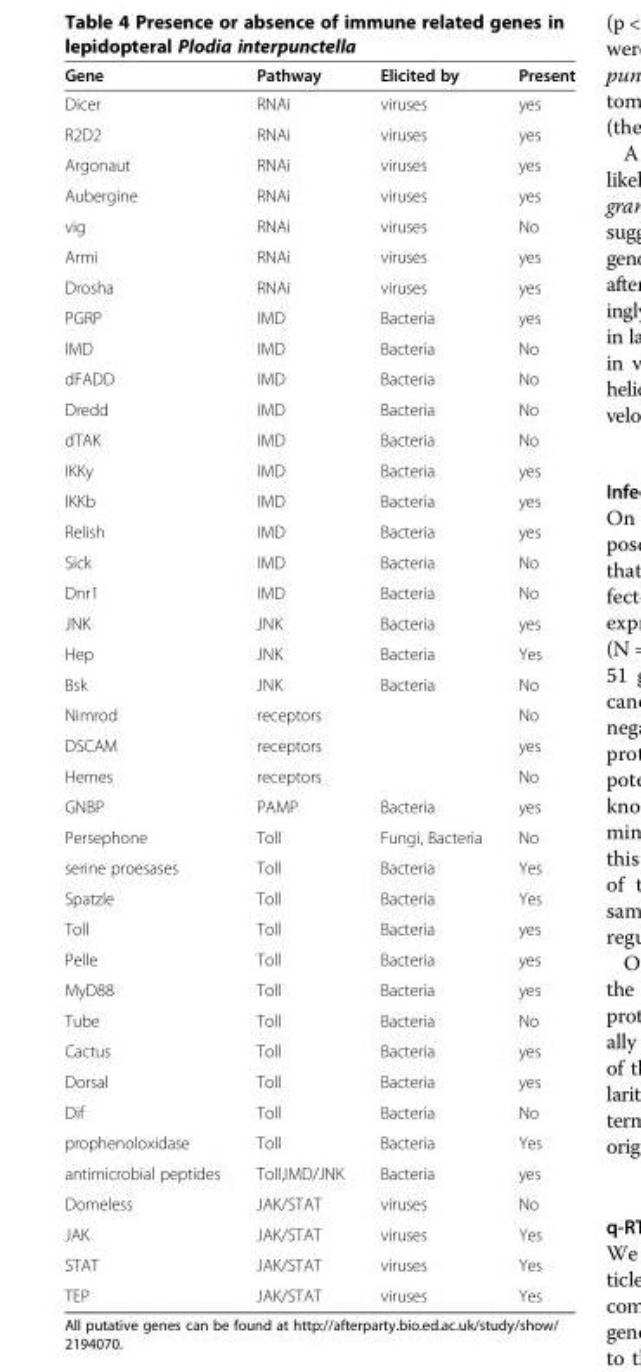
<table><thead><tr><td>Gene</td><td>Pathway</td><td>Elicited by</td><td>Present</td></tr></thead><tbody><tr><td>Dicer</td><td>RNAi</td><td>viruses</td><td>yes</td></tr><tr><td>R2D2</td><td>RNAi</td><td>viruses</td><td>yes</td></tr><tr><td>Argonaut</td><td>RNAi</td><td>viruses</td><td>yes</td></tr><tr><td>Aubergine</td><td>RNAi</td><td>viruses</td><td>yes</td></tr><tr><td>vig</td><td>RNAi</td><td>viruses</td><td>No</td></tr><tr><td>Armi</td><td>RNAi</td><td>viruses</td><td>yes</td></tr><tr><td>Drosha</td><td>RNAi</td><td>viruses</td><td>yes</td></tr><tr><td>PGRP</td><td>IMD</td><td>Bacteria</td><td>yes</td></tr><tr><td>IMD</td><td>IMD</td><td>Bacteria</td><td>No</td></tr><tr><td>dFADD</td><td>IMD</td><td>Bacteria</td><td>No</td></tr><tr><td>Dredd</td><td>IMD</td><td>Bacteria</td><td>No</td></tr><tr><td>dTAK</td><td>IMD</td><td>Bacteria</td><td>No</td></tr><tr><td>IKKy</td><td>IMD</td><td>Bacteria</td><td>yes</td></tr><tr><td>IKKb</td><td>IMD</td><td>Bacteria</td><td>yes</td></tr><tr><td>Relish</td><td>IMD</td><td>Bacteria</td><td>yes</td></tr><tr><td>Sick</td><td>IMD</td><td>Bacteria</td><td>No</td></tr><tr><td>Dnr1</td><td>IMD</td><td>Bacteria</td><td>No</td></tr><tr><td>JNK</td><td>JNK</td><td>Bacteria</td><td>yes</td></tr><tr><td>Hep</td><td>JNK</td><td>Bacteria</td><td>Yes</td></tr><tr><td>Bsk</td><td>JNK</td><td>Bacteria</td><td>No</td></tr><tr><td>Nimrod</td><td>receptors</td><td></td><td>No</td></tr><tr><td>DSCAM</td><td>receptors</td><td></td><td>yes</td></tr><tr><td>Hemes</td><td>receptors</td><td></td><td>No</td></tr><tr><td>GNBP</td><td>PAMP</td><td>Bacteria</td><td>yes</td></tr><tr><td>Persephone</td><td>Toll</td><td>Fungi, Bacteria</td><td>No</td></tr><tr><td>serine proesases</td><td>Toll</td><td>Bacteria</td><td>Yes</td></tr><tr><td>Spatzle</td><td>Toll</td><td>Bacteria</td><td>Yes</td></tr><tr><td>Toll</td><td>Toll</td><td>Bacteria</td><td>yes</td></tr><tr><td>Pelle</td><td>Toll</td><td>Bacteria</td><td>yes</td></tr><tr><td>MyD88</td><td>Toll</td><td>Bacteria</td><td>yes</td></tr><tr><td>Tube</td><td>Toll</td><td>Bacteria</td><td>No</td></tr><tr><td>Cactus</td><td>Toll</td><td>Bacteria</td><td>yes</td></tr><tr><td>Dorsal</td><td>Toll</td><td>Bacteria</td><td>yes</td></tr><tr><td>Dif</td><td>Toll</td><td>Bacteria</td><td>No</td></tr><tr><td>prophenoloxidase</td><td>Toll</td><td>Bacteria</td><td>Yes</td></tr><tr><td>antimicrobial peptides</td><td>Toll,IMD/JNK</td><td>Bacteria</td><td>yes</td></tr><tr><td>Domeless</td><td>JAK/STAT</td><td>viruses</td><td>No</td></tr><tr><td>JAK</td><td>JAK/STAT</td><td>viruses</td><td>Yes</td></tr><tr><td>STAT</td><td>JAK/STAT</td><td>viruses</td><td>Yes</td></tr><tr><td>TEP</td><td>JAK/STAT</td><td>viruses</td><td>Yes</td></tr></tbody></table>